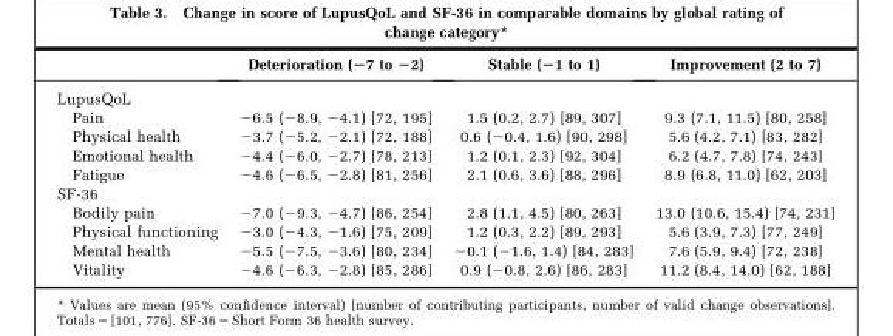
<table><thead><tr><td></td><td>Deterioration (−7 to −2)</td><td>Stable (−1 to 1)</td><td>Improvement (2 to 7)</td></tr></thead><tbody><tr><td colspan="4">LupusQoL</td></tr><tr><td>Pain</td><td>−6.5 (−8.9, −4.1) [72, 195]</td><td>1.5 (0.2, 2.7) [89, 307]</td><td>9.3 (7.1, 11.5) [80, 258]</td></tr><tr><td>Physical health</td><td>−3.7 (−5.2, −2.1) [72, 188]</td><td>0.6 (−0.4, 1.6) [90, 298]</td><td>5.6 (4.2, 7.1) [83, 282]</td></tr><tr><td>Emotional health</td><td>−4.4 (−6.0, −2.7) [78, 213]</td><td>1.2 (0.1, 2.3) [92, 304]</td><td>6.2 (4.7, 7.8) [74, 243]</td></tr><tr><td>Fatigue</td><td>−4.6 (−6.5, −2.8) [81, 256]</td><td>2.1 (0.6, 3.6) [88, 296]</td><td>8.9 (6.8, 11.0) [62, 203]</td></tr><tr><td colspan="4">SF-36</td></tr><tr><td>Bodily pain</td><td>−7.0 (−9.3, −4.7) [86, 254]</td><td>2.8 (1.1, 4.5) [80, 263]</td><td>13.0 (10.6, 15.4) [74, 231]</td></tr><tr><td>Physical functioning</td><td>−3.0 (−4.3, −1.6) [75, 209]</td><td>1.2 (0.3, 2.2) [89, 293]</td><td>5.6 (3.9, 7.3) [77, 249]</td></tr><tr><td>Mental health</td><td>−5.5 (−7.5, −3.6) [80, 234]</td><td>−0.1 (−1.6, 1.4) [84, 283]</td><td>7.6 (5.9, 9.4) [72, 238]</td></tr><tr><td>Vitality</td><td>−4.6 (−6.3, −2.8) [85, 286]</td><td>0.9 (−0.8, 2.6) [86, 283]</td><td>11.2 (8.4, 14.0) [62, 188]</td></tr></tbody></table>